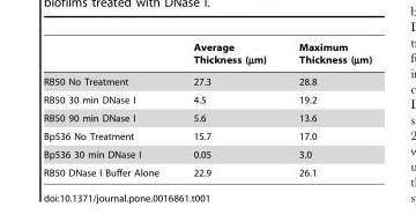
<table><thead><tr><td></td><td>Average Thickness (µm)</td><td>Maximum Thickness (µm)</td></tr></thead><tbody><tr><td>RB50 No Treatment</td><td>27.3</td><td>28.8</td></tr><tr><td>RB50 30 min DNase I</td><td>4.5</td><td>19.2</td></tr><tr><td>RB50 90 min DNase I</td><td>5.6</td><td>13.6</td></tr><tr><td>Bp536 No Treatment</td><td>15.7</td><td>17.0</td></tr><tr><td>Bp536 30 min DNase I</td><td>0.05</td><td>3.0</td></tr><tr><td>RB50 DNase I Buffer Alone</td><td>22.9</td><td>26.1</td></tr></tbody></table>